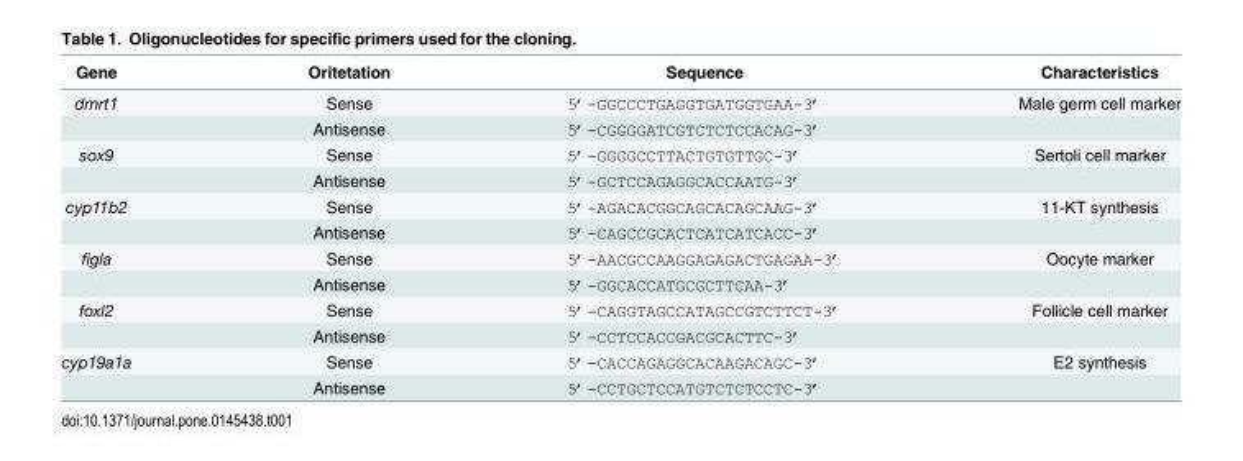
<table><thead><tr><td>Gene</td><td>Oritetation</td><td>Sequence</td><td>Characteristics</td></tr></thead><tbody><tr><td rowspan="2">dmrt1</td><td>Sense</td><td>5’-GGCCCTGAGGTGATGGTGAA-3’</td><td>Male germ cell marker</td></tr><tr><td>Antisense</td><td>5’-CGGGGATCGTCTCTCCACAG-3’</td><td></td></tr><tr><td rowspan="2">sox9</td><td>Sense</td><td>5’-GGGGCCTTACTGTGTTGC-3’</td><td>Sertoli cell marker</td></tr><tr><td>Antisense</td><td>5’-GCTCCAGAGGCACCAATG-3’</td><td></td></tr><tr><td rowspan="2">cyp11b2</td><td>Sense</td><td>5’-AGACACGGCAGCACAGCAAG-3’</td><td>11-KT synthesis</td></tr><tr><td>Antisense</td><td>5’-CAGCCGCACTCATCATCACC-3’</td><td></td></tr><tr><td rowspan="2">figla</td><td>Sense</td><td>5’-AACGCCAAGGAGAGACTGAGAA-3’</td><td>Oocyte marker</td></tr><tr><td>Antisense</td><td>5’-GGCACCATGCGCTTCAA-3’</td><td></td></tr><tr><td rowspan="2">foxl2</td><td>Sense</td><td>5’-CAGGTAGCCATAGCCGTCTTCT-3’</td><td>Follicle cell marker</td></tr><tr><td>Antisense</td><td>5’-CCTCCACCGACGCACTTC-3’</td><td></td></tr><tr><td rowspan="2">cyp19a1a</td><td>Sense</td><td>5’-CACCAGAGGCACAAGACAGC-3’</td><td>E2 synthesis</td></tr><tr><td>Antisense</td><td>5’-CCTGCTCCATGTCTCTCCTC-3’</td><td></td></tr></tbody></table>